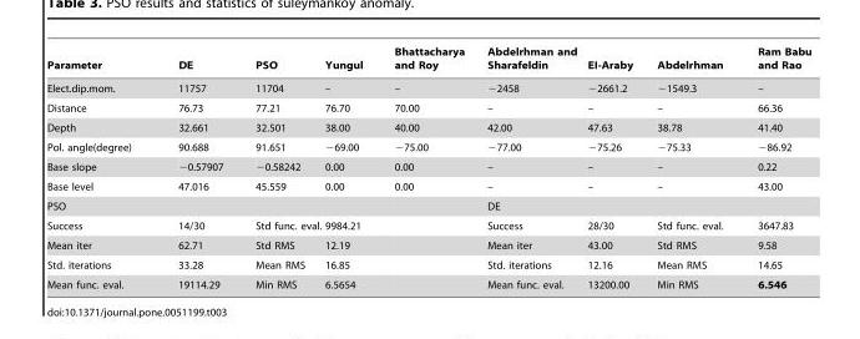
<table><thead><tr><td>Parameter</td><td>DE</td><td>PSO</td><td>Yungul</td><td>Bhattacharya and Roy</td><td>Abdelrhman and Sharafeldin</td><td>EI-Araby</td><td>Abdelrhman</td><td>Ram Babu and Rao</td></tr></thead><tbody><tr><td>Elect.dip.mom.</td><td>11757</td><td>11704</td><td>–</td><td>–</td><td>−2458</td><td>−2661.2</td><td>−1549.3</td><td>–</td></tr><tr><td>Distance</td><td>76.73</td><td>77.21</td><td>76.70</td><td>70.00</td><td>–</td><td>–</td><td>–</td><td>66.36</td></tr><tr><td>Depth</td><td>32.661</td><td>32.501</td><td>38.00</td><td>40.00</td><td>42.00</td><td>47.63</td><td>38.78</td><td>41.40</td></tr><tr><td>Pol. angle(degree)</td><td>90.688</td><td>91.651</td><td>−69.00</td><td>−75.00</td><td>−77.00</td><td>−75.26</td><td>−75.33</td><td>−86.92</td></tr><tr><td>Base slope</td><td>−0.57907</td><td>−0.58242</td><td>0.00</td><td>0.00</td><td>–</td><td>–</td><td>–</td><td>0.22</td></tr><tr><td>Base level</td><td>47.016</td><td>45.559</td><td>0.00</td><td>0.00</td><td>–</td><td>–</td><td>–</td><td>43.00</td></tr><tr><td colspan="4">PSO</td><td></td><td colspan="4">DE</td></tr><tr><td>Success</td><td>14/30</td><td>Std func. eval.</td><td>9984.21</td><td></td><td>Success</td><td>28/30</td><td>Std func. eval.</td><td>3647.83</td></tr><tr><td>Mean iter</td><td>62.71</td><td>Std RMS</td><td>12.19</td><td></td><td>Mean iter</td><td>43.00</td><td>Std RMS</td><td>9.58</td></tr><tr><td>Std. iterations</td><td>33.28</td><td>Mean RMS</td><td>16.85</td><td></td><td>Std. iterations</td><td>12.16</td><td>Mean RMS</td><td>14.65</td></tr><tr><td>Mean func. eval.</td><td>19114.29</td><td>Min RMS</td><td>6.5654</td><td></td><td>Mean func. eval.</td><td>13200.00</td><td>Min RMS</td><td>6.546</td></tr></tbody></table>